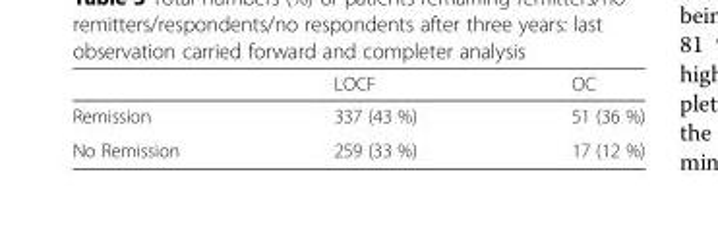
<table><thead><tr><td></td><td>LOCF</td><td>OC</td></tr></thead><tbody><tr><td>Remission</td><td>337 (43 %)</td><td>51 (36 %)</td></tr><tr><td>No Remission</td><td>259 (33 %)</td><td>17 (12 %)</td></tr></tbody></table>